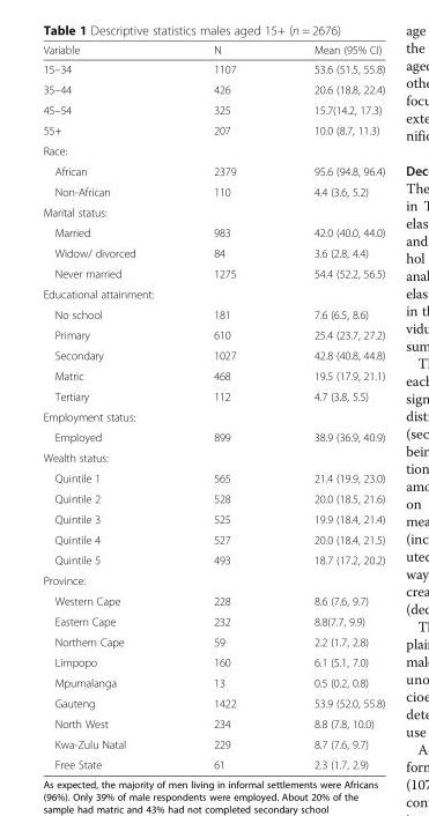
<table><thead><tr><td>Variable</td><td>N</td><td>Mean (95% CI)</td></tr></thead><tbody><tr><td>15–34</td><td>1107</td><td>53.6 (51.5, 55.8)</td></tr><tr><td>35–44</td><td>426</td><td>20.6 (18.8, 22.4)</td></tr><tr><td>45–54</td><td>325</td><td>15.7(14.2, 17.3)</td></tr><tr><td>55+</td><td>207</td><td>10.0 (8.7, 11.3)</td></tr><tr><td colspan="3">Race:</td></tr><tr><td>African</td><td>2379</td><td>95.6 (94.8, 96.4)</td></tr><tr><td>Non-African</td><td>110</td><td>4.4 (3.6, 5.2)</td></tr><tr><td colspan="3">Marital status:</td></tr><tr><td>Married</td><td>983</td><td>42.0 (40.0, 44.0)</td></tr><tr><td>Widow/ divorced</td><td>84</td><td>3.6 (2.8, 4.4)</td></tr><tr><td>Never married</td><td>1275</td><td>54.4 (52.2, 56.5)</td></tr><tr><td colspan="3">Educational attainment:</td></tr><tr><td>No school</td><td>181</td><td>7.6 (6.5, 8.6)</td></tr><tr><td>Primary</td><td>610</td><td>25.4 (23.7, 27.2)</td></tr><tr><td>Secondary</td><td>1027</td><td>42.8 (40.8, 44.8)</td></tr><tr><td>Matric</td><td>468</td><td>19.5 (17.9, 21.1)</td></tr><tr><td>Tertiary</td><td>112</td><td>4.7 (3.8, 5.5)</td></tr><tr><td colspan="3">Employment status:</td></tr><tr><td>Employed</td><td>899</td><td>38.9 (36.9, 40.9)</td></tr><tr><td colspan="3">Wealth status:</td></tr><tr><td>Quintile 1</td><td>565</td><td>21.4 (19.9, 23.0)</td></tr><tr><td>Quintile 2</td><td>528</td><td>20.0 (18.5, 21.6)</td></tr><tr><td>Quintile 3</td><td>525</td><td>19.9 (18.4, 21.4)</td></tr><tr><td>Quintile 4</td><td>527</td><td>20.0 (18.4, 21.5)</td></tr><tr><td>Quintile 5</td><td>493</td><td>18.7 (17.2, 20.2)</td></tr><tr><td colspan="3">Province:</td></tr><tr><td>Western Cape</td><td>228</td><td>8.6 (7.6, 9.7)</td></tr><tr><td>Eastern Cape</td><td>232</td><td>8.8(7.7, 9.9)</td></tr><tr><td>Northern Cape</td><td>59</td><td>2.2 (1.7, 2.8)</td></tr><tr><td>Limpopo</td><td>160</td><td>6.1 (5.1, 7.0)</td></tr><tr><td>Mpumalanga</td><td>13</td><td>0.5 (0.2, 0.8)</td></tr><tr><td>Gauteng</td><td>1422</td><td>53.9 (52.0, 55.8)</td></tr><tr><td>North West</td><td>234</td><td>8.8 (7.8, 10.0)</td></tr><tr><td>Kwa-Zulu Natal</td><td>229</td><td>8.7 (7.6, 9.7)</td></tr><tr><td>Free State</td><td>61</td><td>2.3 (1.7, 2.9)</td></tr></tbody></table>